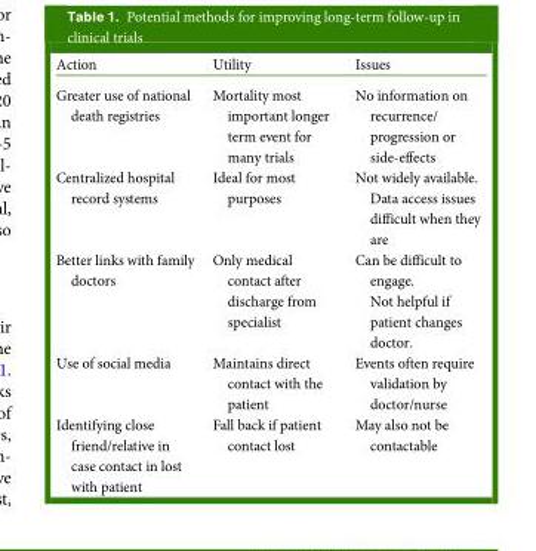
<table><thead><tr><td>Action</td><td>Utility</td><td>Issues</td></tr></thead><tbody><tr><td>Greater use of national death registries</td><td>Mortality most important longer term event for many trials</td><td>No information on recurrence/ progression or side-effects</td></tr><tr><td>Centralized hospital record systems</td><td>Ideal for most purposes</td><td>Not widely available. Data access issues difficult when they are</td></tr><tr><td>Better links with family doctors</td><td>Only medical contact after discharge from specialist</td><td>Can be difficult to engage. Not helpful if patient changes doctor.</td></tr><tr><td>Use of social media</td><td>Maintains direct contact with the patient</td><td>Events often require validation by doctor/nurse</td></tr><tr><td>Identifying close friend/relative in case contact in lost with patient</td><td>Fall back if patient contact lost</td><td>May also not be contactable</td></tr></tbody></table>